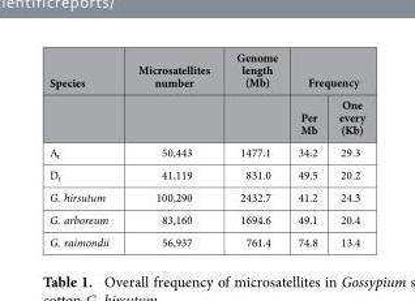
<table><thead><tr><td rowspan="2">Species</td><td rowspan="2">Microsatellites number</td><td rowspan="2">Genome length (Mb)</td><td colspan="2">Frequency</td></tr><tr><td>Per Mb</td><td>One every (Kb)</td></tr></thead><tbody><tr><td>A<sub>t</sub></td><td>50,443</td><td>1477.1</td><td>34.2</td><td>29.3</td></tr><tr><td>D<sub>t</sub></td><td>41,119</td><td>831.0</td><td>49.5</td><td>20.2</td></tr><tr><td>G. hirsutum</td><td>100,290</td><td>2432.7</td><td>41.2</td><td>24.3</td></tr><tr><td>G. arboreum</td><td>83,160</td><td>1694.6</td><td>49.1</td><td>20.4</td></tr><tr><td>G. raimondii</td><td>56,937</td><td>761.4</td><td>74.8</td><td>13.4</td></tr></tbody></table>